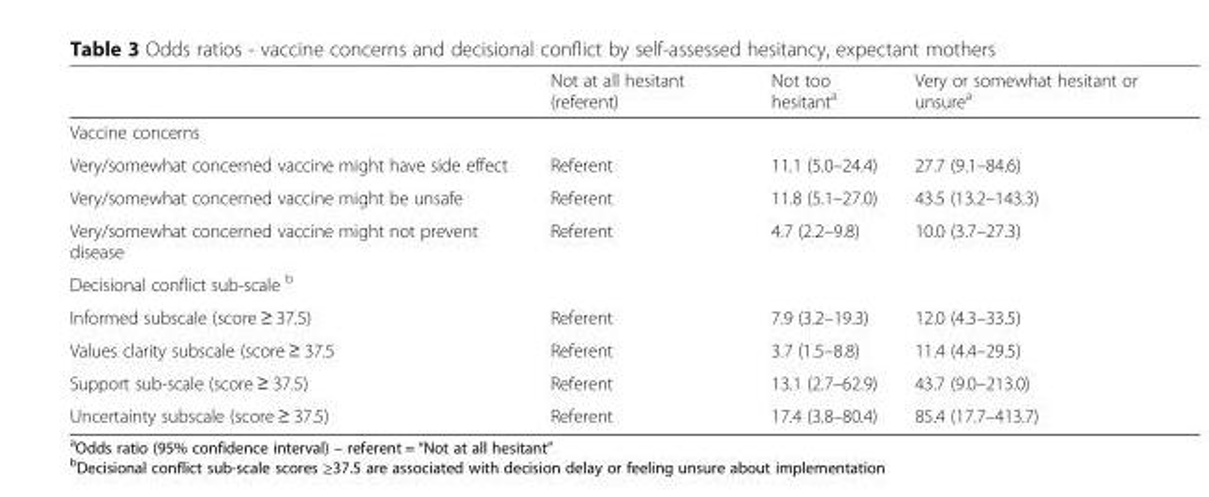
<table><thead><tr><td></td><td>Not at all hesitant (referent)</td><td>Not too hesitant<sup>a</sup></td><td>Very or somewhat hesitant or unsure<sup>a</sup></td></tr></thead><tbody><tr><td colspan="4">Vaccine concerns</td></tr><tr><td>Very/somewhat concerned vaccine might have side effect</td><td>Referent</td><td>11.1 (5.0–24.4)</td><td>27.7 (9.1–84.6)</td></tr><tr><td>Very/somewhat concerned vaccine might be unsafe</td><td>Referent</td><td>11.8 (5.1–27.0)</td><td>43.5 (13.2–143.3)</td></tr><tr><td>Very/somewhat concerned vaccine might not prevent disease</td><td>Referent</td><td>4.7 (2.2–9.8)</td><td>10.0 (3.7–27.3)</td></tr><tr><td colspan="4">Decisional conflict sub-scale <sup>b</sup></td></tr><tr><td>Informed subscale (score ≥ 37.5)</td><td>Referent</td><td>7.9 (3.2–19.3)</td><td>12.0 (4.3–33.5)</td></tr><tr><td>Values clarity subscale (score ≥ 37.5</td><td>Referent</td><td>3.7 (1.5–8.8)</td><td>11.4 (4.4–29.5)</td></tr><tr><td>Support sub-scale (score ≥ 37.5)</td><td>Referent</td><td>13.1 (2.7–62.9)</td><td>43.7 (9.0–213.0)</td></tr><tr><td>Uncertainty subscale (score ≥ 37.5)</td><td>Referent</td><td>17.4 (3.8–80.4)</td><td>85.4 (17.7–413.7)</td></tr></tbody></table>